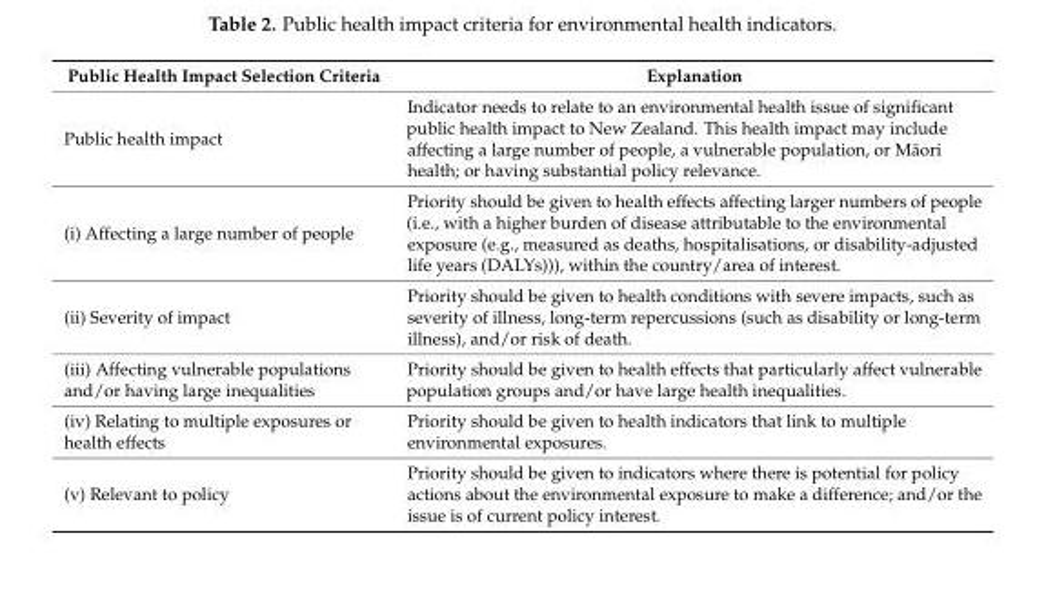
<table><thead><tr><td>Public Health Impact Selection Criteria</td><td>Explanation</td></tr></thead><tbody><tr><td>Public health impact</td><td>Indicator needs to relate to an environmental health issue of significant public health impact to New Zealand. This health impact may include affecting a large number of people, a vulnerable population, or M¯aori health; or having substantial policy relevance.</td></tr><tr><td>(i) Affecting a large number of people</td><td>Priority should be given to health effects affecting larger numbers of people (i.e., with a higher burden of disease attributable to the environmental exposure (e.g., measured as deaths, hospitalisations, or disability-adjusted life years (DALYs))), within the country/area of interest.</td></tr><tr><td>(ii) Severity of impact</td><td>Priority should be given to health conditions with severe impacts, such as severity of illness, long-term repercussions (such as disability or long-term illness), and/or risk of death.</td></tr><tr><td>(iii) Affecting vulnerable populations and/or having large inequalities</td><td>Priority should be given to health effects that particularly affect vulnerable population groups and/or have large health inequalities.</td></tr><tr><td>(iv) Relating to multiple exposures or health effects</td><td>Priority should be given to health indicators that link to multiple environmental exposures.</td></tr><tr><td>(v) Relevant to policy</td><td>Priority should be given to indicators where there is potential for policy actions about the environmental exposure to make a difference; and/or the issue is of current policy interest.</td></tr></tbody></table>